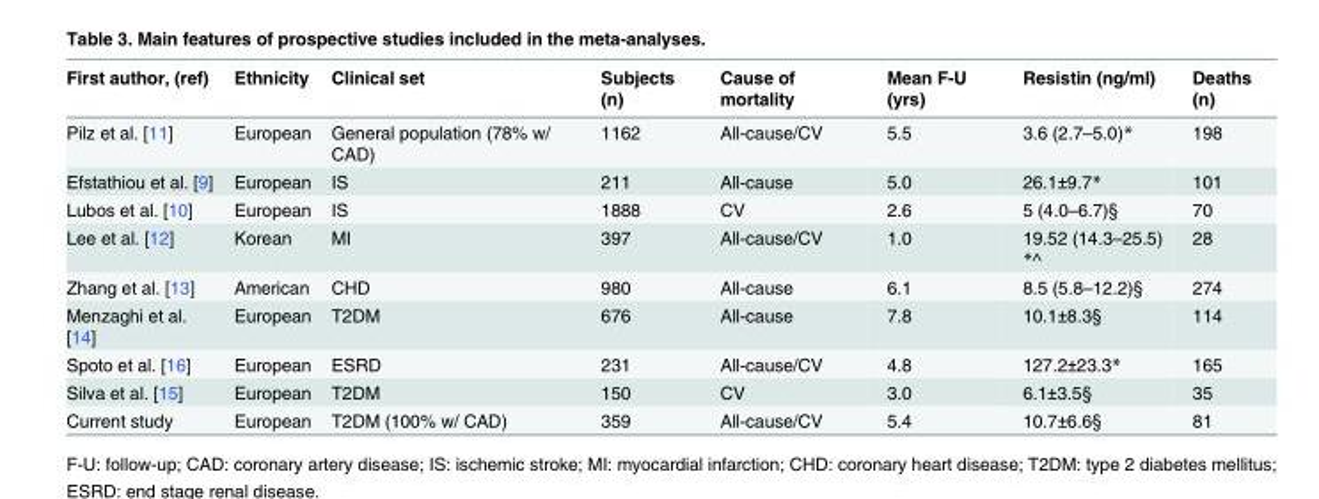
<table><thead><tr><td>First author, (ref)</td><td>Ethnicity</td><td>Clinical set</td><td>Subjects (n)</td><td>Cause of mortality</td><td>Mean F-U (yrs)</td><td>Resistin (ng/ml)</td><td>Deaths (n)</td></tr></thead><tbody><tr><td>Pilz et al. [11]</td><td>European</td><td>General population (78% w/ CAD)</td><td>1162</td><td>All-cause/CV</td><td>5.5</td><td>3.6 (2.7–5.0)*</td><td>198</td></tr><tr><td>Efstathiou et al. [9]</td><td>European</td><td>IS</td><td>211</td><td>All-cause</td><td>5.0</td><td>26.1±9.7*</td><td>101</td></tr><tr><td>Lubos et al. [10]</td><td>European</td><td>IS</td><td>1888</td><td>CV</td><td>2.6</td><td>5 (4.0–6.7)§</td><td>70</td></tr><tr><td>Lee et al. [12]</td><td>Korean</td><td>MI</td><td>397</td><td>All-cause/CV</td><td>1.0</td><td>19.52 (14.3–25.5) *^</td><td>28</td></tr><tr><td>Zhang et al. [13]</td><td>American</td><td>CHD</td><td>980</td><td>All-cause</td><td>6.1</td><td>8.5 (5.8–12.2)§</td><td>274</td></tr><tr><td>Menzaghi et al. [14]</td><td>European</td><td>T2DM</td><td>676</td><td>All-cause</td><td>7.8</td><td>10.1±8.3§</td><td>114</td></tr><tr><td>Spoto et al. [16]</td><td>European</td><td>ESRD</td><td>231</td><td>All-cause/CV</td><td>4.8</td><td>127.2±23.3*</td><td>165</td></tr><tr><td>Silva et al. [15]</td><td>European</td><td>T2DM</td><td>150</td><td>CV</td><td>3.0</td><td>6.1±3.5§</td><td>35</td></tr><tr><td>Current study</td><td>European</td><td>T2DM (100% w/ CAD)</td><td>359</td><td>All-cause/CV</td><td>5.4</td><td>10.7±6.6§</td><td>81</td></tr></tbody></table>